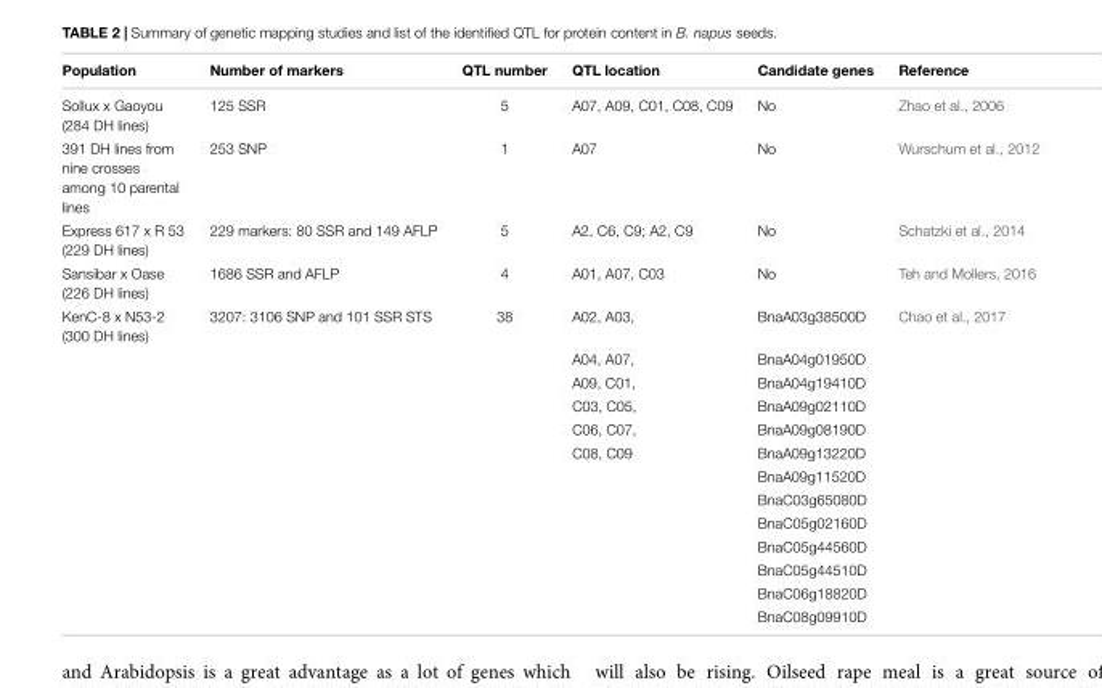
<table><thead><tr><td>Population</td><td>Number of markers</td><td>QTL number</td><td>QTL location</td><td>Candidate genes</td><td>Reference</td></tr></thead><tbody><tr><td>Sollux x Gaoyou (284 DH lines)</td><td>125 SSR</td><td>5</td><td>A07, A09, C01, C08, C09</td><td>No</td><td>Zhao et al., 2006</td></tr><tr><td>391 DH lines from nine crosses among 10 parental lines</td><td>253 SNP</td><td>1</td><td>A07</td><td>No</td><td>Wurschum et al., 2012</td></tr><tr><td>Express 617 x R 53 (229 DH lines)</td><td>229 markers: 80 SSR and 149 AFLP</td><td>5</td><td>A2, C6, C9; A2, C9</td><td>No</td><td>Schatzki et al., 2014</td></tr><tr><td>Sansibar x Oase (226 DH lines)</td><td>1686 SSR and AFLP</td><td>4</td><td>A01, A07, C03</td><td>No</td><td>Teh and Mollers, 2016</td></tr><tr><td rowspan="13">KenC-8 x N53-2 (300 DH lines)</td><td>3207: 3106 SNP and 101 SSR STS</td><td>38</td><td>A02, A03,</td><td>BnaA03g38500D</td><td>Chao et al., 2017</td></tr><tr><td></td><td></td><td>A04, A07,</td><td>BnaA04g01950D</td><td></td></tr><tr><td></td><td></td><td>A09, C01,</td><td>BnaA04g19410D</td><td></td></tr><tr><td></td><td></td><td>C03, C05,</td><td>BnaA09g02110D</td><td></td></tr><tr><td></td><td></td><td>C06, C07,</td><td>BnaA09g08190D</td><td></td></tr><tr><td></td><td></td><td>C08, C09</td><td>BnaA09g13220D</td><td></td></tr><tr><td></td><td></td><td></td><td>BnaA09g11520D</td><td></td></tr><tr><td></td><td></td><td></td><td>BnaC03g65080D</td><td></td></tr><tr><td></td><td></td><td></td><td>BnaC05g02160D</td><td></td></tr><tr><td></td><td></td><td></td><td>BnaC05g44560D</td><td></td></tr><tr><td></td><td></td><td></td><td>BnaC05g44510D</td><td></td></tr><tr><td></td><td></td><td></td><td>BnaC06g18820D</td><td></td></tr><tr><td></td><td></td><td></td><td>BnaC08g09910D</td><td></td></tr></tbody></table>